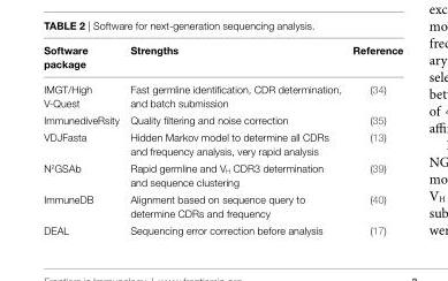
<table><thead><tr><td>Software package</td><td>Strengths</td><td>Reference</td></tr></thead><tbody><tr><td>IMGT/High V-Quest</td><td>Fast germline identification, CDR determination, and batch submission</td><td>(34)</td></tr><tr><td>ImmunediveRsity</td><td>Quality filtering and noise correction</td><td>(35)</td></tr><tr><td>VDJFasta</td><td>Hidden Markov model to determine all CDRs and frequency analysis, very rapid analysis</td><td>(13)</td></tr><tr><td>N<sup>2</sup>GSAb</td><td>Rapid germline and V<sub>H</sub> CDR3 determination and sequence clustering</td><td>(39)</td></tr><tr><td>ImmuneDB</td><td>Alignment based on sequence query to determine CDRs and frequency</td><td>(40)</td></tr><tr><td>DEAL</td><td>Sequencing error correction before analysis</td><td>(17)</td></tr></tbody></table>